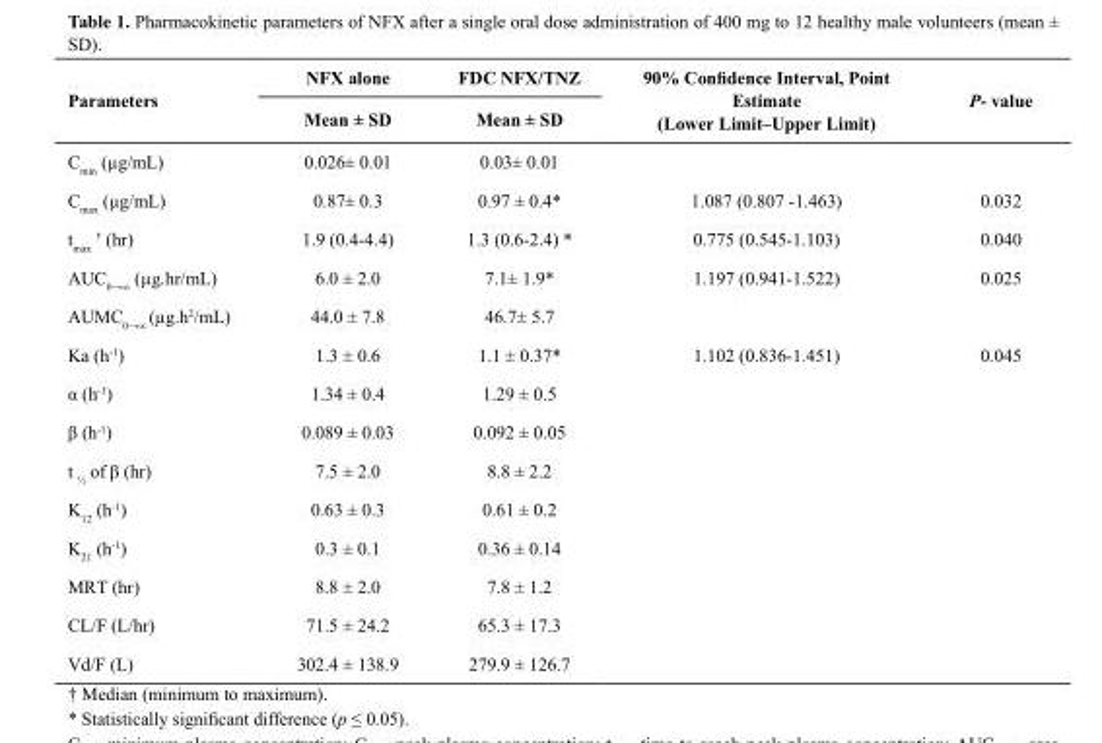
<table><thead><tr><td rowspan="2">Parameters</td><td rowspan="2">NFX alone Mean ± SD</td><td rowspan="2">FDC NFX/TNZ Mean ± SD</td><td rowspan="2">90% Confidence Interval, Point Estimate (Lower Limit–Upper Limit)</td><td rowspan="2">P- value</td></tr><tr></tr></thead><tbody><tr><td>C<sub>min</sub> (µg/mL)</td><td>0.026± 0.01</td><td>0.03± 0.01</td><td></td><td></td></tr><tr><td>C<sub>max</sub> (µg/mL)</td><td>0.87± 0.3</td><td>0.97 ± 0.4*</td><td>1.087 (0.807 -1.463)</td><td>0.032</td></tr><tr><td>t<sub>max</sub> † (hr)</td><td>1.9 (0.4-4.4)</td><td>1.3 (0.6-2.4) *</td><td>0.775 (0.545-1.103)</td><td>0.040</td></tr><tr><td>AUC0→∞ (µg.hr/mL)</td><td>6.0 ± 2.0</td><td>7.1± 1.9*</td><td>1.197 (0.941-1.522)</td><td>0.025</td></tr><tr><td>AUMC0→∞ (µg.h2/mL)</td><td>44.0 ± 7.8</td><td>46.7± 5.7</td><td></td><td></td></tr><tr><td>K<sub>a</sub> (h<sup>-1</sup>)</td><td>1.3 ± 0.6</td><td>1.1 ± 0.37*</td><td>1.102 (0.836-1.451)</td><td>0.045</td></tr><tr><td>α (h<sup>-1</sup>)</td><td>1.34 ± 0.4</td><td>1.29 ± 0.5</td><td></td><td></td></tr><tr><td>β (h<sup>-1</sup>)</td><td>0.089 ± 0.03</td><td>0.092 ± 0.05</td><td></td><td></td></tr><tr><td>t <sub>½</sub> of β (hr)</td><td>7.5 ± 2.0</td><td>8.8 ± 2.2</td><td></td><td></td></tr><tr><td>K<sub>12</sub> (h<sup>-1</sup>)</td><td>0.63 ± 0.3</td><td>0.61 ± 0.2</td><td></td><td></td></tr><tr><td>K<sub>21</sub> (h<sup>-1</sup>)</td><td>0.3 ± 0.1</td><td>0.36 ± 0.14</td><td></td><td></td></tr><tr><td>MRT (hr)</td><td>8.8 ± 2.0</td><td>7.8 ± 1.2</td><td></td><td></td></tr><tr><td>CL/F (L/hr)</td><td>71.5 ± 24.2</td><td>65.3 ± 17.3</td><td></td><td></td></tr><tr><td>Vd/F (L)</td><td>302.4 ± 138.9</td><td>279.9 ± 126.7</td><td></td><td></td></tr></tbody></table>